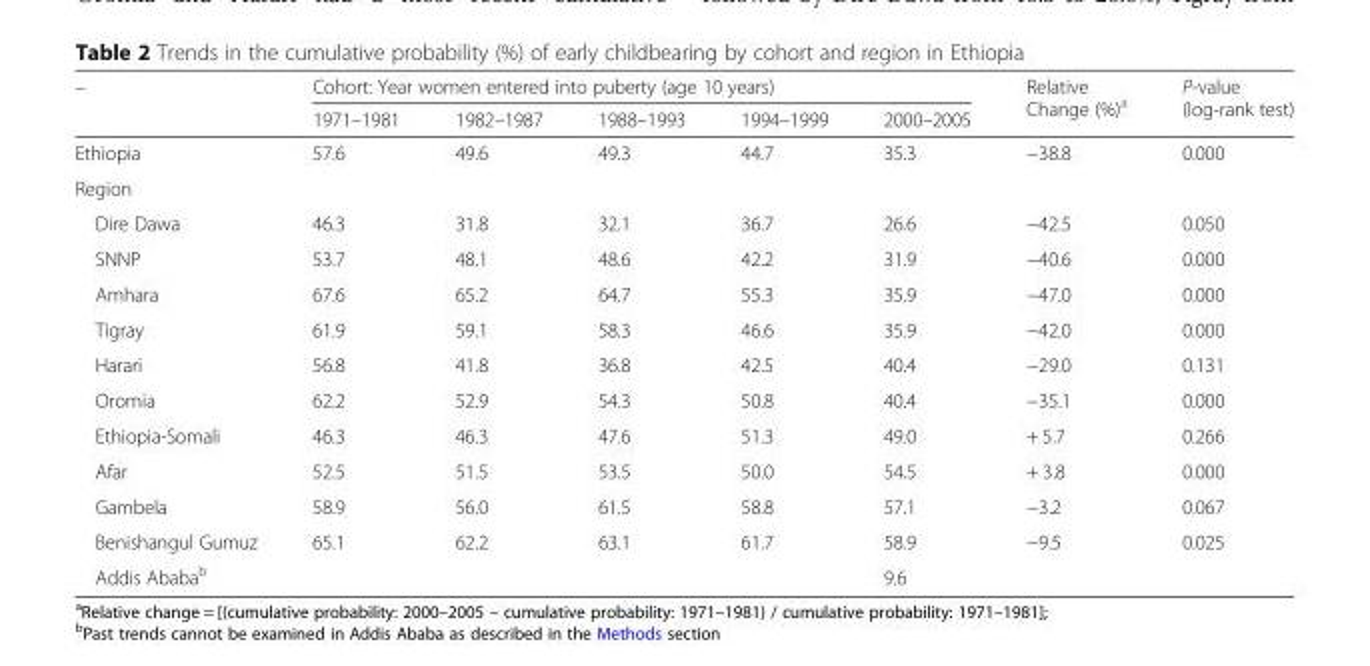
<table><thead><tr><td rowspan="2">–</td><td colspan="5">Cohort: Year women entered into puberty (age 10 years)</td><td rowspan="2">Relative Change (%)<sup>a</sup></td><td rowspan="2">P-value (log-rank test)</td></tr><tr><td>1971–1981</td><td>1982–1987</td><td>1988–1993</td><td>1994–1999</td><td>2000–2005</td></tr></thead><tbody><tr><td>Ethiopia</td><td>57.6</td><td>49.6</td><td>49.3</td><td>44.7</td><td>35.3</td><td>−38.8</td><td>0.000</td></tr><tr><td colspan="8">Region</td></tr><tr><td>Dire Dawa</td><td>46.3</td><td>31.8</td><td>32.1</td><td>36.7</td><td>26.6</td><td>−42.5</td><td>0.050</td></tr><tr><td>SNNP</td><td>53.7</td><td>48.1</td><td>48.6</td><td>42.2</td><td>31.9</td><td>−40.6</td><td>0.000</td></tr><tr><td>Amhara</td><td>67.6</td><td>65.2</td><td>64.7</td><td>55.3</td><td>35.9</td><td>−47.0</td><td>0.000</td></tr><tr><td>Tigray</td><td>61.9</td><td>59.1</td><td>58.3</td><td>46.6</td><td>35.9</td><td>−42.0</td><td>0.000</td></tr><tr><td>Harari</td><td>56.8</td><td>41.8</td><td>36.8</td><td>42.5</td><td>40.4</td><td>−29.0</td><td>0.131</td></tr><tr><td>Oromia</td><td>62.2</td><td>52.9</td><td>54.3</td><td>50.8</td><td>40.4</td><td>−35.1</td><td>0.000</td></tr><tr><td>Ethiopia-Somali</td><td>46.3</td><td>46.3</td><td>47.6</td><td>51.3</td><td>49.0</td><td>+ 5.7</td><td>0.266</td></tr><tr><td>Afar</td><td>52.5</td><td>51.5</td><td>53.5</td><td>50.0</td><td>54.5</td><td>+ 3.8</td><td>0.000</td></tr><tr><td>Gambela</td><td>58.9</td><td>56.0</td><td>61.5</td><td>58.8</td><td>57.1</td><td>−3.2</td><td>0.067</td></tr><tr><td>Benishangul Gumuz</td><td>65.1</td><td>62.2</td><td>63.1</td><td>61.7</td><td>58.9</td><td>−9.5</td><td>0.025</td></tr><tr><td>Addis Ababa<sup>b</sup></td><td></td><td></td><td></td><td></td><td>9.6</td><td></td><td></td></tr></tbody></table>